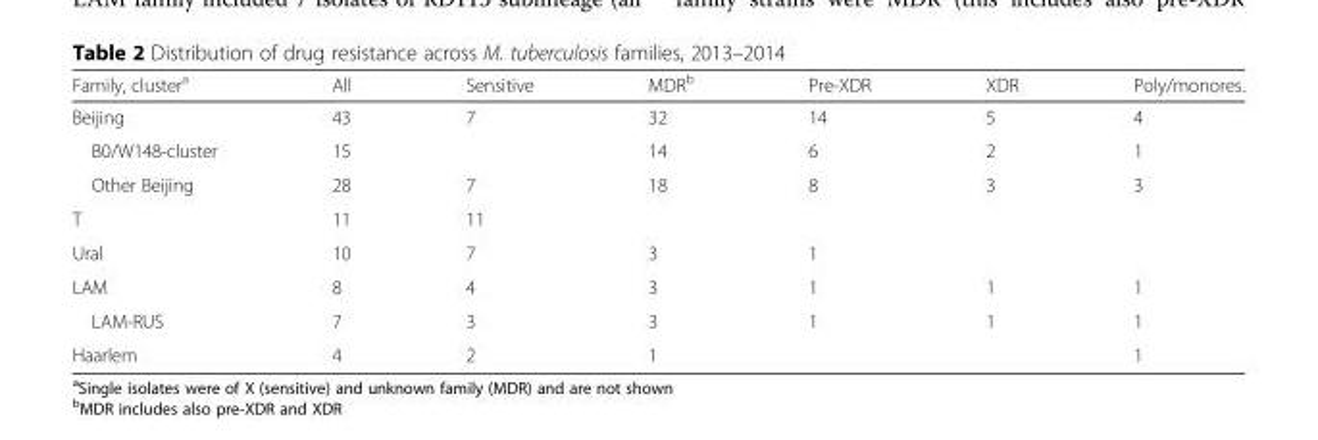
<table><thead><tr><td>Family, cluster<sup>a</sup></td><td>All</td><td>Sensitive</td><td>MDR<sup>b</sup></td><td>Pre-XDR</td><td>XDR</td><td>Poly/monores.</td></tr></thead><tbody><tr><td>Beijing</td><td>43</td><td>7</td><td>32</td><td>14</td><td>5</td><td>4</td></tr><tr><td>B0/W148-cluster</td><td>15</td><td></td><td>14</td><td>6</td><td>2</td><td>1</td></tr><tr><td>Other Beijing</td><td>28</td><td>7</td><td>18</td><td>8</td><td>3</td><td>3</td></tr><tr><td>T</td><td>11</td><td>11</td><td></td><td></td><td></td><td></td></tr><tr><td>Ural</td><td>10</td><td>7</td><td>3</td><td>1</td><td></td><td></td></tr><tr><td>LAM</td><td>8</td><td>4</td><td>3</td><td>1</td><td>1</td><td>1</td></tr><tr><td>LAM-RUS</td><td>7</td><td>3</td><td>3</td><td>1</td><td>1</td><td>1</td></tr><tr><td>Haarlem</td><td>4</td><td>2</td><td>1</td><td></td><td></td><td>1</td></tr></tbody></table>